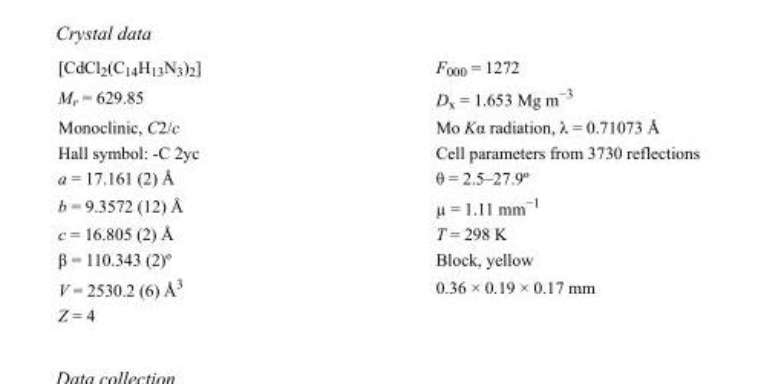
<table><tbody><tr><td>[CdCl<sub>2</sub>(C<sub>14</sub>H<sub>13</sub>N<sub>3</sub>)<sub>2</sub>]</td><td>F000 = 1272</td></tr><tr><td>M<sub>r</sub> = 629.85</td><td>D<sub>x</sub> = 1.653 Mg m<sup>−3</sup></td></tr><tr><td>Monoclinic, C2/c</td><td>Mo Kα radiation, λ = 0.71073 Å</td></tr><tr><td>Hall symbol: -C 2yc</td><td>Cell parameters from 3730 reflections</td></tr><tr><td>a = 17.161 (2) Å</td><td>θ = 2.5–27.9º</td></tr><tr><td>b = 9.3572 (12) Å</td><td>µ = 1.11 mm<sup>−1</sup></td></tr><tr><td>c = 16.805 (2) Å</td><td>T = 298 K</td></tr><tr><td>β = 110.343 (2)º</td><td>Block, yellow</td></tr><tr><td>V = 2530.2 (6) Å<sup>3</sup></td><td>0.36 × 0.19 × 0.17 mm</td></tr><tr><td>Z = 4</td><td></td></tr></tbody></table>